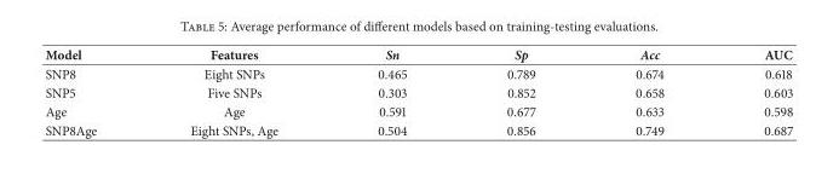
<table><thead><tr><td>Model</td><td>Features</td><td>Sn</td><td>Sp</td><td>Acc</td><td>AUC</td></tr></thead><tbody><tr><td>SNP8</td><td>Eight SNPs</td><td>0.465</td><td>0.789</td><td>0.674</td><td>0.618</td></tr><tr><td>SNP5</td><td>Five SNPs</td><td>0.303</td><td>0.852</td><td>0.658</td><td>0.603</td></tr><tr><td>Age</td><td>Age</td><td>0.591</td><td>0.677</td><td>0.633</td><td>0.598</td></tr><tr><td>SNP8Age</td><td>Eight SNPs, Age</td><td>0.504</td><td>0.856</td><td>0.749</td><td>0.687</td></tr></tbody></table>